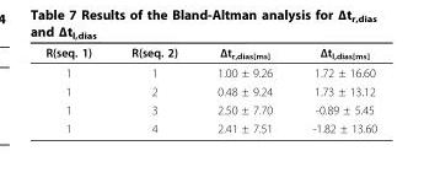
<table><thead><tr><td>R(seq. 1)</td><td>R(seq. 2)</td><td>Δt<sub>r,dias[ms]</sub></td><td>Δt<sub>l,dias[ms]</sub></td></tr></thead><tbody><tr><td>1</td><td>1</td><td>1.00 ± 9.26</td><td>1.72 ± 16.60</td></tr><tr><td>1</td><td>2</td><td>0.48 ± 9.24</td><td>1.73 ± 13.12</td></tr><tr><td>1</td><td>3</td><td>2.50 ± 7.70</td><td>-0.89 ± 5.45</td></tr><tr><td>1</td><td>4</td><td>2.41 ± 7.51</td><td>-1.82 ± 13.60</td></tr></tbody></table>